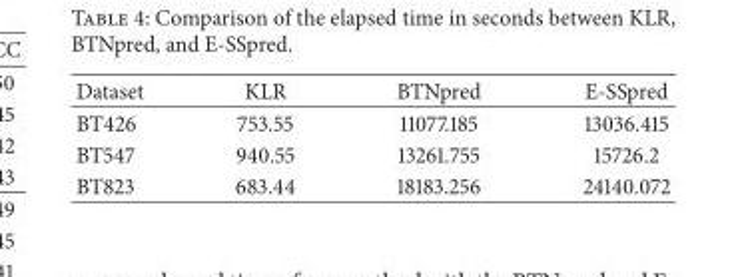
<table><thead><tr><td>Dataset</td><td>KLR</td><td>BTNpred</td><td>E-SSpred</td></tr></thead><tbody><tr><td>BT426</td><td>753.55</td><td>11077.185</td><td>13036.415</td></tr><tr><td>BT547</td><td>940.55</td><td>13261.755</td><td>15726.2</td></tr><tr><td>BT823</td><td>683.44</td><td>18183.256</td><td>24140.072</td></tr></tbody></table>